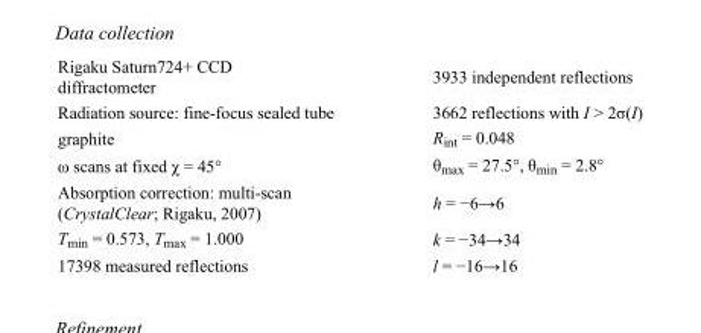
<table><tbody><tr><td>Rigaku Saturn724+ CCD diffractometer</td><td>3933 independent reflections</td></tr><tr><td>Radiation source: fine-focus sealed tube</td><td>3662 reflections with I &gt; 2σ(I)</td></tr><tr><td>graphite</td><td>R<sub>int</sub> = 0.048</td></tr><tr><td>ω scans at fixed χ = 45°</td><td>θ<sub>max</sub> = 27.5°, θ<sub>min</sub> = 2.8°</td></tr><tr><td>Absorption correction: multi-scan (CrystalClear; Rigaku, 2007)</td><td>h = −6→6</td></tr><tr><td>T<sub>min</sub> = 0.573, T<sub>max</sub> = 1.000</td><td>k = −34→34</td></tr><tr><td>17398 measured reflections</td><td>l = −16→16</td></tr></tbody></table>